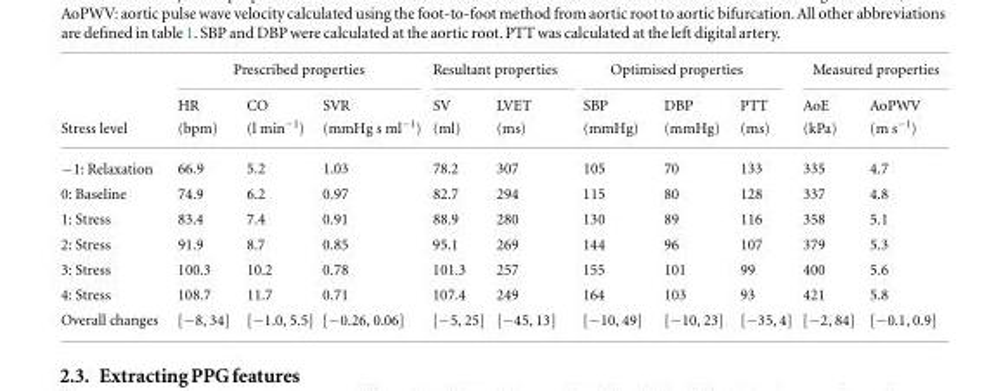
<table><thead><tr><td rowspan="2">Stress level</td><td colspan="3">Prescribed properties</td><td colspan="2">Resultant properties</td><td colspan="3">Optimised properties</td><td colspan="2">Measured properties</td></tr><tr><td>HR (bpm)</td><td>CO (l min<sup>−1</sup>)</td><td>SVR (mmHg s ml<sup>−1</sup>)</td><td>SV (ml)</td><td>LVET (ms)</td><td>SBP (mmHg)</td><td>DBP (mmHg)</td><td>PTT (ms)</td><td>AoE (kPa)</td><td>AoPWV (m s<sup>−1</sup>)</td></tr></thead><tbody><tr><td>−1: Relaxation</td><td>66.9</td><td>5.2</td><td>1.03</td><td>78.2</td><td>307</td><td>105</td><td>70</td><td>133</td><td>335</td><td>4.7</td></tr><tr><td>0: Baseline</td><td>74.9</td><td>6.2</td><td>0.97</td><td>82.7</td><td>294</td><td>115</td><td>80</td><td>128</td><td>337</td><td>4.8</td></tr><tr><td>1: Stress</td><td>83.4</td><td>7.4</td><td>0.91</td><td>88.9</td><td>280</td><td>130</td><td>89</td><td>116</td><td>358</td><td>5.1</td></tr><tr><td>2: Stress</td><td>91.9</td><td>8.7</td><td>0.85</td><td>95.1</td><td>269</td><td>144</td><td>96</td><td>107</td><td>379</td><td>5.3</td></tr><tr><td>3: Stress</td><td>100.3</td><td>10.2</td><td>0.78</td><td>101.3</td><td>257</td><td>155</td><td>101</td><td>99</td><td>400</td><td>5.6</td></tr><tr><td>4: Stress</td><td>108.7</td><td>11.7</td><td>0.71</td><td>107.4</td><td>249</td><td>164</td><td>103</td><td>93</td><td>421</td><td>5.8</td></tr><tr><td>Overall changes</td><td>[−8, 34]</td><td>[−1.0, 5.5]</td><td>[−0.26, 0.06]</td><td>[−5, 25]</td><td>[−45, 13]</td><td>[−10, 49]</td><td>[−10, 23]</td><td>[−35, 4]</td><td>[−2, 84]</td><td>[−0.1, 0.9]</td></tr></tbody></table>